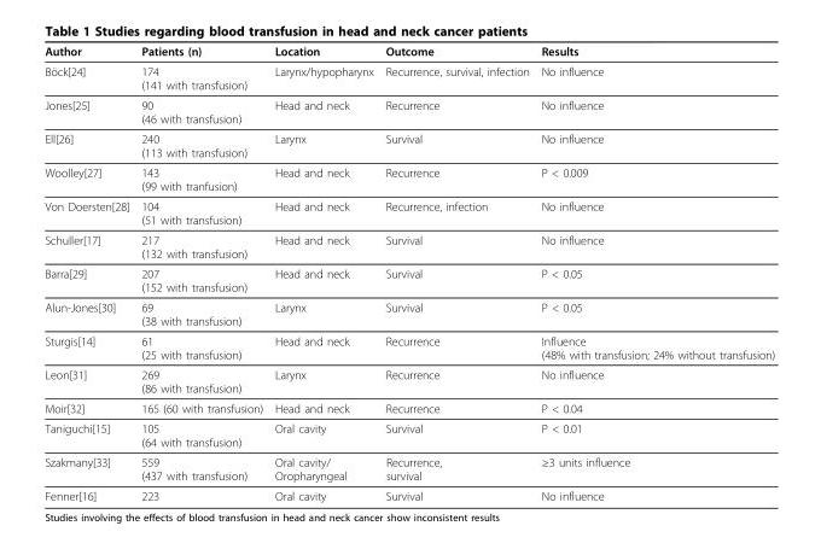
<table><thead><tr><td>Author</td><td>Patients (n)</td><td>Location</td><td>Outcome</td><td>Results</td></tr></thead><tbody><tr><td>Böck[24]</td><td>174 (141 with transfusion)</td><td>Larynx/hypopharynx</td><td>Recurrence, survival, infection</td><td>No influence</td></tr><tr><td>Jones[25]</td><td>90 (46 with transfusion)</td><td>Head and neck</td><td>Recurrence</td><td>No influence</td></tr><tr><td>Ell[26]</td><td>240 (113 with transfusion)</td><td>Larynx</td><td>Survival</td><td>No influence</td></tr><tr><td>Woolley[27]</td><td>143 (99 with tranfusion)</td><td>Head and neck</td><td>Recurrence</td><td>P &lt; 0.009</td></tr><tr><td>Von Doersten[28]</td><td>104 (51 with transfusion)</td><td>Head and neck</td><td>Recurrence, infection</td><td>No influence</td></tr><tr><td>Schuller[17]</td><td>217 (132 with transfusion)</td><td>Head and neck</td><td>Survival</td><td>No influence</td></tr><tr><td>Barra[29]</td><td>207 (152 with transfusion)</td><td>Head and neck</td><td>Survival</td><td>P &lt; 0.05</td></tr><tr><td>Alun-Jones[30]</td><td>69 (38 with transfusion)</td><td>Larynx</td><td>Survival</td><td>P &lt; 0.05</td></tr><tr><td>Sturgis[14]</td><td>61 (25 with transfusion)</td><td>Head and neck</td><td>Recurrence</td><td>Influence (48% with transfusion; 24% without transfusion)</td></tr><tr><td>Leon[31]</td><td>269 (86 with transfusion)</td><td>Larynx</td><td>Recurrence</td><td>No influence</td></tr><tr><td>Moir[32]</td><td>165 (60 with transfusion)</td><td>Head and neck</td><td>Recurrence</td><td>P &lt; 0.04</td></tr><tr><td>Taniguchi[15]</td><td>105 (64 with transfusion)</td><td>Oral cavity</td><td>Survival</td><td>P &lt; 0.01</td></tr><tr><td>Szakmany[33]</td><td>559 (437 with transfusion)</td><td>Oral cavity/ Oropharyngeal</td><td>Recurrence, survival</td><td>≥3 units influence</td></tr><tr><td>Fenner[16]</td><td>223</td><td>Oral cavity</td><td>Survival</td><td>No influence</td></tr></tbody></table>